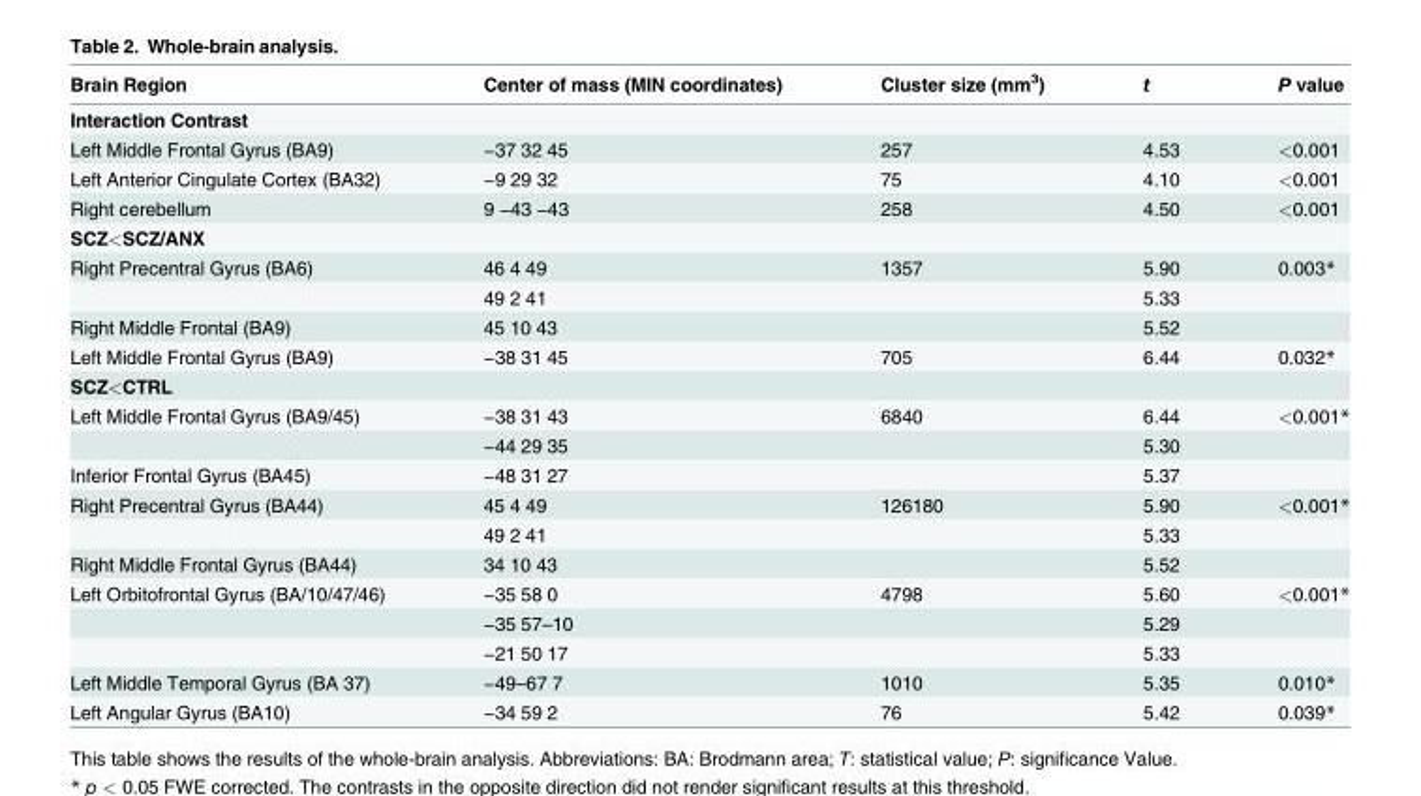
<table><thead><tr><td>Brain Region</td><td>Center of mass (MIN coordinates)</td><td>Cluster size (mm<sup>3</sup>)</td><td>t</td><td>P value</td></tr></thead><tbody><tr><td colspan="5">Interaction Contrast</td></tr><tr><td>Left Middle Frontal Gyrus (BA9)</td><td>−37 32 45</td><td>257</td><td>4.53</td><td>&lt;0.001</td></tr><tr><td>Left Anterior Cingulate Cortex (BA32)</td><td>−9 29 32</td><td>75</td><td>4.10</td><td>&lt;0.001</td></tr><tr><td>Right cerebellum</td><td>9 −43 −43</td><td>258</td><td>4.50</td><td>&lt;0.001</td></tr><tr><td colspan="5">SCZ&lt;SCZ/ANX</td></tr><tr><td rowspan="2">Right Precentral Gyrus (BA6)</td><td>46 4 49</td><td>1357</td><td>5.90</td><td>0.003*</td></tr><tr><td>49 2 41</td><td></td><td>5.33</td><td></td></tr><tr><td>Right Middle Frontal (BA9)</td><td>45 10 43</td><td></td><td>5.52</td><td></td></tr><tr><td>Left Middle Frontal Gyrus (BA9)</td><td>−38 31 45</td><td>705</td><td>6.44</td><td>0.032*</td></tr><tr><td colspan="5">SCZ&lt;CTRL</td></tr><tr><td rowspan="2">Left Middle Frontal Gyrus (BA9/45)</td><td>−38 31 43</td><td>6840</td><td>6.44</td><td>&lt;0.001*</td></tr><tr><td>−44 29 35</td><td></td><td>5.30</td><td></td></tr><tr><td>Inferior Frontal Gyrus (BA45)</td><td>−48 31 27</td><td></td><td>5.37</td><td></td></tr><tr><td rowspan="2">Right Precentral Gyrus (BA44)</td><td>45 4 49</td><td>126180</td><td>5.90</td><td>&lt;0.001*</td></tr><tr><td>49 2 41</td><td></td><td>5.33</td><td></td></tr><tr><td>Right Middle Frontal Gyrus (BA44)</td><td>34 10 43</td><td></td><td>5.52</td><td></td></tr><tr><td rowspan="3">Left Orbitofrontal Gyrus (BA/10/47/46)</td><td>−35 58 0</td><td>4798</td><td>5.60</td><td>&lt;0.001*</td></tr><tr><td>−35 57–10</td><td></td><td>5.29</td><td></td></tr><tr><td>−21 50 17</td><td></td><td>5.33</td><td></td></tr><tr><td>Left Middle Temporal Gyrus (BA 37)</td><td>−49–67 7</td><td>1010</td><td>5.35</td><td>0.010*</td></tr><tr><td>Left Angular Gyrus (BA10)</td><td>−34 59 2</td><td>76</td><td>5.42</td><td>0.039*</td></tr></tbody></table>